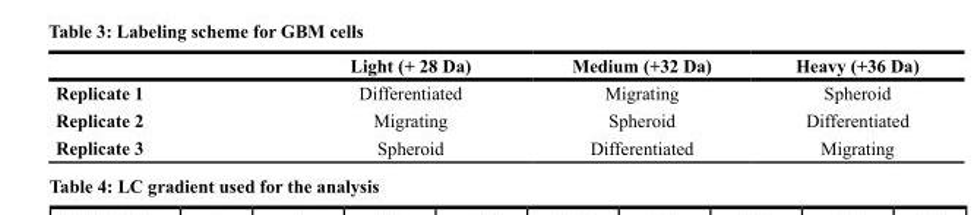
<table><thead><tr><td></td><td>Light (+ 28 Da)</td><td>Medium (+32 Da)</td><td>Heavy (+36 Da)</td></tr></thead><tbody><tr><td>Replicate 1</td><td>Differentiated</td><td>Migrating</td><td>Spheroid</td></tr><tr><td>Replicate 2</td><td>Migrating</td><td>Spheroid</td><td>Differentiated</td></tr><tr><td>Replicate 3</td><td>Spheroid</td><td>Differentiated</td><td>Migrating</td></tr></tbody></table>